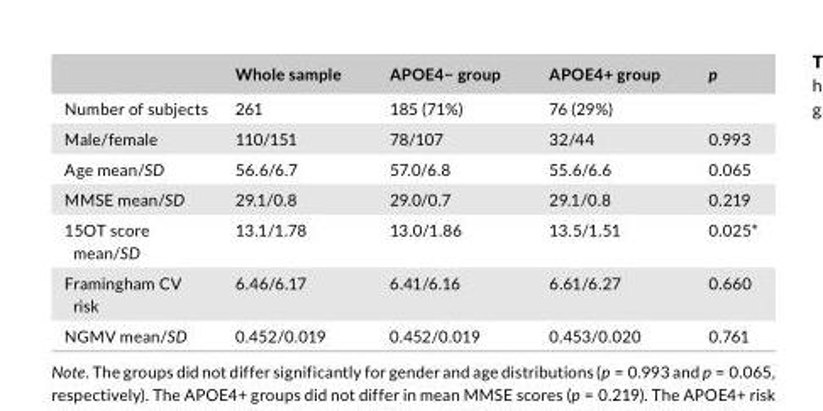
<table><thead><tr><td></td><td>Whole sample</td><td>APOE4− group</td><td>APOE4+ group</td><td>p</td></tr></thead><tbody><tr><td>Number of subjects</td><td>261</td><td>185 (71%)</td><td>76 (29%)</td><td></td></tr><tr><td>Male/female</td><td>110/151</td><td>78/107</td><td>32/44</td><td>0.993</td></tr><tr><td>Age mean/SD</td><td>56.6/6.7</td><td>57.0/6.8</td><td>55.6/6.6</td><td>0.065</td></tr><tr><td>MMSE mean/SD</td><td>29.1/0.8</td><td>29.0/0.7</td><td>29.1/0.8</td><td>0.219</td></tr><tr><td>15OT score mean/SD</td><td>13.1/1.78</td><td>13.0/1.86</td><td>13.5/1.51</td><td>0.025*</td></tr><tr><td>Framingham CV risk</td><td>6.46/6.17</td><td>6.41/6.16</td><td>6.61/6.27</td><td>0.660</td></tr><tr><td>NGMV mean/SD</td><td>0.452/0.019</td><td>0.452/0.019</td><td>0.453/0.020</td><td>0.761</td></tr></tbody></table>